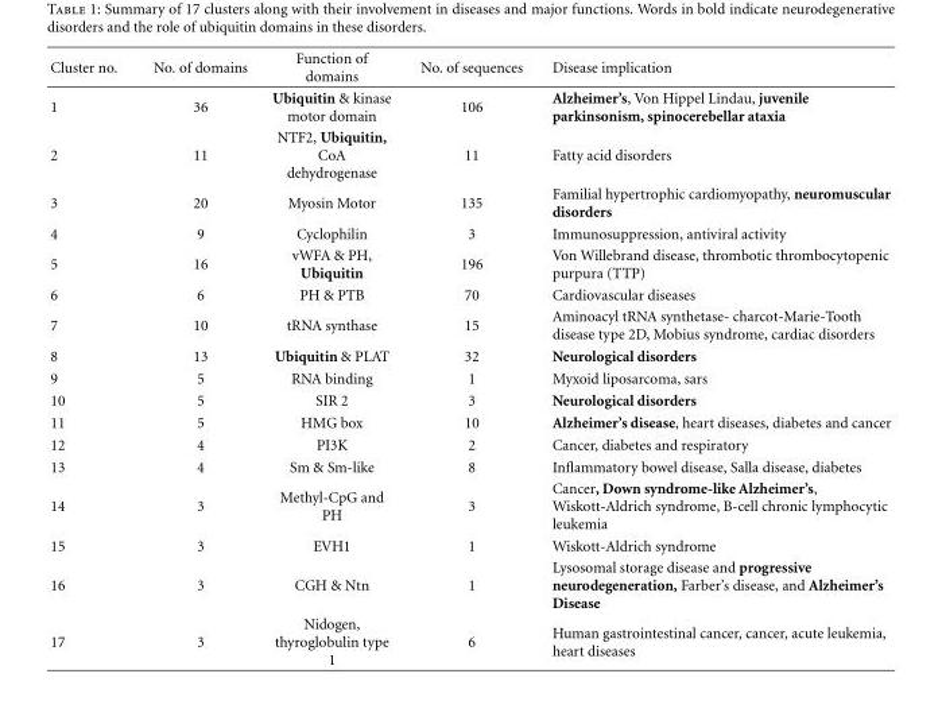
<table><thead><tr><td>Cluster no.</td><td>No. of domains</td><td>Function of domains</td><td>No. of sequences</td><td>Disease implication</td></tr></thead><tbody><tr><td>1</td><td>36</td><td>Ubiquitin &amp; kinase motor domain</td><td>106</td><td>Alzheimer’s, Von Hippel Lindau, juvenile parkinsonism, spinocerebellar ataxia</td></tr><tr><td>2</td><td>11</td><td>NTF2, Ubiquitin, CoA dehydrogenase</td><td>11</td><td>Fatty acid disorders</td></tr><tr><td>3</td><td>20</td><td>Myosin Motor</td><td>135</td><td>Familial hypertrophic cardiomyopathy, neuromuscular disorders</td></tr><tr><td>4</td><td>9</td><td>Cyclophilin</td><td>3</td><td>Immunosuppression, antiviral activity</td></tr><tr><td>5</td><td>16</td><td>vWFA &amp; PH, Ubiquitin</td><td>196</td><td>Von Willebrand disease, thrombotic thrombocytopenic purpura (TTP)</td></tr><tr><td>6</td><td>6</td><td>PH &amp; PTB</td><td>70</td><td>Cardiovascular diseases</td></tr><tr><td>7</td><td>10</td><td>tRNA synthase</td><td>15</td><td>Aminoacyl tRNA synthetase- charcot-Marie-Tooth disease type 2D, Mobius syndrome, cardiac disorders</td></tr><tr><td>8</td><td>13</td><td>Ubiquitin &amp; PLAT</td><td>32</td><td>Neurological disorders</td></tr><tr><td>9</td><td>5</td><td>RNA binding</td><td>1</td><td>Myxoid liposarcoma, sars</td></tr><tr><td>10</td><td>5</td><td>SIR 2</td><td>3</td><td>Neurological disorders</td></tr><tr><td>11</td><td>5</td><td>HMG box</td><td>10</td><td>Alzheimer’s disease, heart diseases, diabetes and cancer</td></tr><tr><td>12</td><td>4</td><td>PI3K</td><td>2</td><td>Cancer, diabetes and respiratory</td></tr><tr><td>13</td><td>4</td><td>Sm &amp; Sm-like</td><td>8</td><td>Inflammatory bowel disease, Salla disease, diabetes</td></tr><tr><td>14</td><td>3</td><td>Methyl-CpG and PH</td><td>3</td><td>Cancer, Down syndrome-like Alzheimer’s, Wiskott-Aldrich syndrome, B-cell chronic lymphocytic leukemia</td></tr><tr><td>15</td><td>3</td><td>EVH1</td><td>1</td><td>Wiskott-Aldrich syndrome</td></tr><tr><td>16</td><td>3</td><td>CGH &amp; Ntn</td><td>1</td><td>Lysosomal storage disease and progressive neurodegeneration, Farber’s disease, and Alzheimer’s Disease</td></tr><tr><td>17</td><td>3</td><td>Nidogen, thyroglobulin type 1</td><td>6</td><td>Human gastrointestinal cancer, cancer, acute leukemia, heart diseases</td></tr></tbody></table>